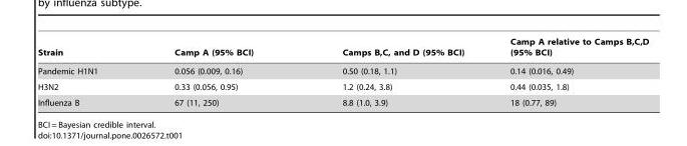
<table><thead><tr><td>Strain</td><td>Camp A (95% BCI)</td><td>Camps B,C, and D (95% BCI)</td><td>Camp A relative to Camps B,C,D (95% BCI)</td></tr></thead><tbody><tr><td>Pandemic H1N1</td><td>0.056 (0.009, 0.16)</td><td>0.50 (0.18, 1.1)</td><td>0.14 (0.016, 0.49)</td></tr><tr><td>H3N2</td><td>0.33 (0.056, 0.95)</td><td>1.2 (0.24, 3.8)</td><td>0.44 (0.035, 1.8)</td></tr><tr><td>Influenza B</td><td>67 (11, 250)</td><td>8.8 (1.0, 3.9)</td><td>18 (0.77, 89)</td></tr></tbody></table>